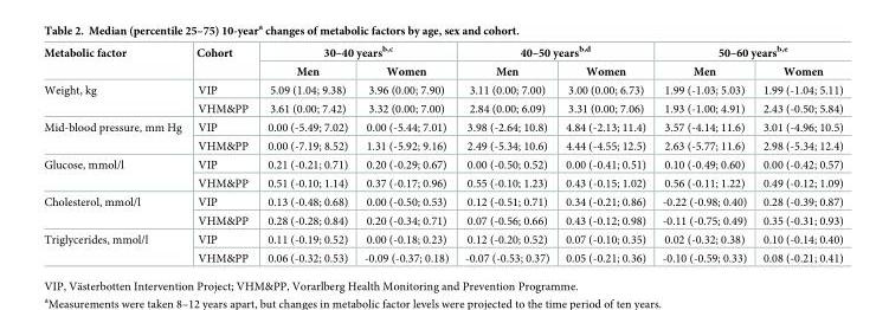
<table><thead><tr><td rowspan="2">Metabolic factor</td><td rowspan="2">Cohort</td><td colspan="2">30–40 years<sup>b,c</sup></td><td colspan="2">40–50 years<sup>b,d</sup></td><td colspan="2">50–60 years<sup>b,e</sup></td></tr><tr><td>Men</td><td>Women</td><td>Men</td><td>Women</td><td>Men</td><td>Women</td></tr></thead><tbody><tr><td rowspan="2">Weight, kg</td><td>VIP</td><td>5.09 (1.04; 9.38)</td><td>3.96 (0.00; 7.90)</td><td>3.11 (0.00; 7.00)</td><td>3.00 (0.00; 6.73)</td><td>1.99 (-1.03; 5.03)</td><td>1.99 (-1.04; 5.11)</td></tr><tr><td>VHM&amp;PP</td><td>3.61 (0.00; 7.42)</td><td>3.32 (0.00; 7.00)</td><td>2.84 (0.00; 6.09)</td><td>3.31 (0.00; 7.06)</td><td>1.93 (-1.00; 4.91)</td><td>2.43 (-0.50; 5.84)</td></tr><tr><td rowspan="2">Mid-blood pressure, mm Hg</td><td>VIP</td><td>0.00 (-5.49; 7.02)</td><td>0.00 (-5.44; 7.01)</td><td>3.98 (-2.64; 10.8)</td><td>4.84 (-2.13; 11.4)</td><td>3.57 (-4.14; 11.6)</td><td>3.01 (-4.96; 10.5)</td></tr><tr><td>VHM&amp;PP</td><td>0.00 (-7.19; 8.52)</td><td>1.31 (-5.92; 9.16)</td><td>2.49 (-5.34; 10.6)</td><td>4.44 (-4.55; 12.5)</td><td>2.63 (-5.77; 11.6)</td><td>2.98 (-5.34; 12.4)</td></tr><tr><td rowspan="2">Glucose, mmol/l</td><td>VIP</td><td>0.21 (-0.21; 0.71)</td><td>0.20 (-0.29; 0.67)</td><td>0.00 (-0.50; 0.52)</td><td>0.00 (-0.41; 0.51)</td><td>0.10 (-0.49; 0.60)</td><td>0.00 (-0.42; 0.57)</td></tr><tr><td>VHM&amp;PP</td><td>0.51 (-0.10; 1.14)</td><td>0.37 (-0.17; 0.96)</td><td>0.55 (-0.10; 1.23)</td><td>0.43 (-0.15; 1.02)</td><td>0.56 (-0.11; 1.22)</td><td>0.49 (-0.12; 1.09)</td></tr><tr><td rowspan="2">Cholesterol, mmol/l</td><td>VIP</td><td>0.13 (-0.48; 0.68)</td><td>0.00 (-0.50; 0.53)</td><td>0.12 (-0.51; 0.71)</td><td>0.34 (-0.21; 0.86)</td><td>-0.22 (-0.98; 0.40)</td><td>0.28 (-0.39; 0.87)</td></tr><tr><td>VHM&amp;PP</td><td>0.28 (-0.28; 0.84)</td><td>0.20 (-0.34; 0.71)</td><td>0.07 (-0.56; 0.66)</td><td>0.43 (-0.12; 0.98)</td><td>-0.11 (-0.75; 0.49)</td><td>0.35 (-0.31; 0.93)</td></tr><tr><td rowspan="2">Triglycerides, mmol/l</td><td>VIP</td><td>0.11 (-0.19; 0.52)</td><td>0.00 (-0.18; 0.23)</td><td>0.12 (-0.20; 0.52)</td><td>0.07 (-0.10; 0.35)</td><td>0.02 (-0.32; 0.38)</td><td>0.10 (-0.14; 0.40)</td></tr><tr><td>VHM&amp;PP</td><td>0.06 (-0.32; 0.53)</td><td>-0.09 (-0.37; 0.18)</td><td>-0.07 (-0.53; 0.37)</td><td>0.05 (-0.21; 0.36)</td><td>-0.10 (-0.59; 0.33)</td><td>0.08 (-0.21; 0.41)</td></tr></tbody></table>